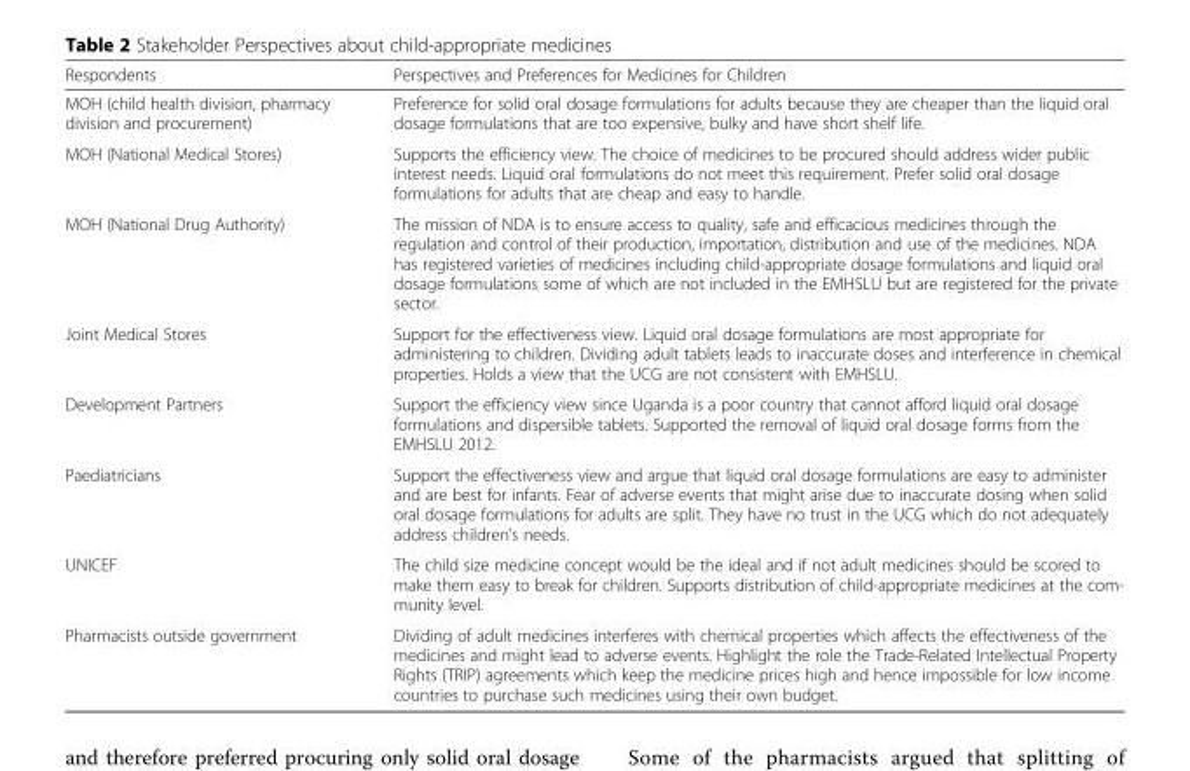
<table><thead><tr><td>Respondents</td><td>Perspectives and Preferences for Medicines for Children</td></tr></thead><tbody><tr><td>MOH (child health division, pharmacy division and procurement)</td><td>Preference for solid oral dosage formulations for adults because they are cheaper than the liquid oral dosage formulations that are too expensive, bulky and have short shelf life.</td></tr><tr><td>MOH (National Medical Stores)</td><td>Supports the efficiency view. The choice of medicines to be procured should address wider public interest needs. Liquid oral formulations do not meet this requirement. Prefer solid oral dosage formulations for adults that are cheap and easy to handle.</td></tr><tr><td>MOH (National Drug Authority)</td><td>The mission of NDA is to ensure access to quality, safe and efficacious medicines through the regulation and control of their production, importation, distribution and use of the medicines. NDA has registered varieties of medicines including child-appropriate dosage formulations and liquid oral dosage formulations some of which are not included in the EMHSLU but are registered for the private sector.</td></tr><tr><td>Joint Medical Stores</td><td>Support for the effectiveness view. Liquid oral dosage formulations are most appropriate for administering to children. Dividing adult tablets leads to inaccurate doses and interference in chemical properties. Holds a view that the UCG are not consistent with EMHSLU.</td></tr><tr><td>Development Partners</td><td>Support the efficiency view since Uganda is a poor country that cannot afford liquid oral dosage formulations and dispersible tablets. Supported the removal of liquid oral dosage forms from the EMHSLU 2012.</td></tr><tr><td>Paediatricians</td><td>Support the effectiveness view and argue that liquid oral dosage formulations are easy to administer and are best for infants. Fear of adverse events that might arise due to inaccurate dosing when solid oral dosage formulations for adults are split. They have no trust in the UCG which do not adequately address children’s needs.</td></tr><tr><td>UNICEF</td><td>The child size medicine concept would be the ideal and if not adult medicines should be scored to make them easy to break for children. Supports distribution of child-appropriate medicines at the com- munity level.</td></tr><tr><td>Pharmacists outside government</td><td>Dividing of adult medicines interferes with chemical properties which affects the effectiveness of the medicines and might lead to adverse events. Highlight the role the Trade-Related Intellectual Property Rights (TRIP) agreements which keep the medicine prices high and hence impossible for low income countries to purchase such medicines using their own budget.</td></tr></tbody></table>